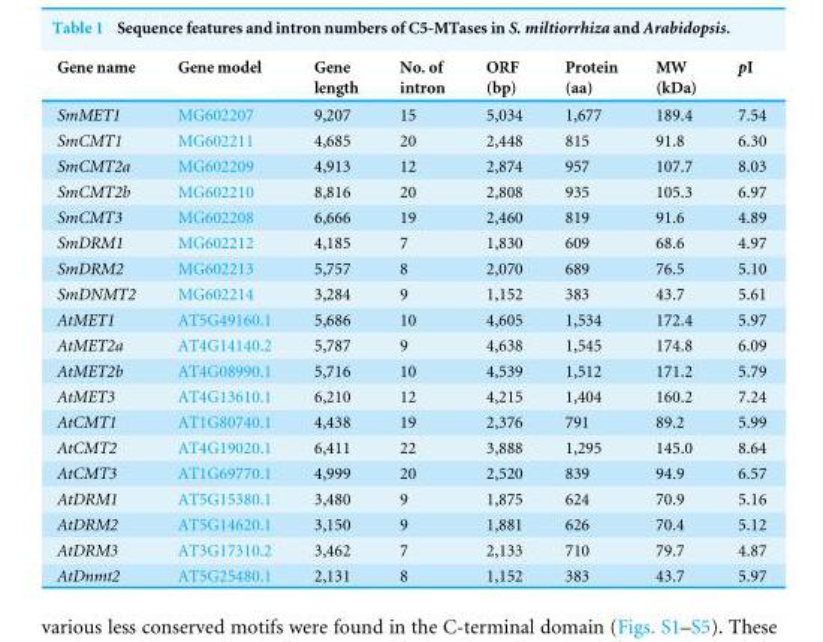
<table><thead><tr><td>Gene name</td><td>Gene model</td><td>Gene length</td><td>No. of intron</td><td>ORF (bp)</td><td>Protein (aa)</td><td>MW (kDa)</td><td>pI</td></tr></thead><tbody><tr><td>SmMET1</td><td>MG602207</td><td>9,207</td><td>15</td><td>5,034</td><td>1,677</td><td>189.4</td><td>7.54</td></tr><tr><td>SmCMT1</td><td>MG602211</td><td>4,685</td><td>20</td><td>2,448</td><td>815</td><td>91.8</td><td>6.30</td></tr><tr><td>SmCMT2a</td><td>MG602209</td><td>4,913</td><td>12</td><td>2,874</td><td>957</td><td>107.7</td><td>8.03</td></tr><tr><td>SmCMT2b</td><td>MG602210</td><td>8,816</td><td>20</td><td>2,808</td><td>935</td><td>105.3</td><td>6.97</td></tr><tr><td>SmCMT3</td><td>MG602208</td><td>6,666</td><td>19</td><td>2,460</td><td>819</td><td>91.6</td><td>4.89</td></tr><tr><td>SmDRM1</td><td>MG602212</td><td>4,185</td><td>7</td><td>1,830</td><td>609</td><td>68.6</td><td>4.97</td></tr><tr><td>SmDRM2</td><td>MG602213</td><td>5,757</td><td>8</td><td>2,070</td><td>689</td><td>76.5</td><td>5.10</td></tr><tr><td>SmDNMT2</td><td>MG602214</td><td>3,284</td><td>9</td><td>1,152</td><td>383</td><td>43.7</td><td>5.61</td></tr><tr><td>AtMET1</td><td>AT5G49160.1</td><td>5,686</td><td>10</td><td>4,605</td><td>1,534</td><td>172.4</td><td>5.97</td></tr><tr><td>AtMET2a</td><td>AT4G14140.2</td><td>5,787</td><td>9</td><td>4,638</td><td>1,545</td><td>174.8</td><td>6.09</td></tr><tr><td>AtMET2b</td><td>AT4G08990.1</td><td>5,716</td><td>10</td><td>4,539</td><td>1,512</td><td>171.2</td><td>5.79</td></tr><tr><td>AtMET3</td><td>AT4G13610.1</td><td>6,210</td><td>12</td><td>4,215</td><td>1,404</td><td>160.2</td><td>7.24</td></tr><tr><td>AtCMT1</td><td>AT1G80740.1</td><td>4,438</td><td>19</td><td>2,376</td><td>791</td><td>89.2</td><td>5.99</td></tr><tr><td>AtCMT2</td><td>AT4G19020.1</td><td>6,411</td><td>22</td><td>3,888</td><td>1,295</td><td>145.0</td><td>8.64</td></tr><tr><td>AtCMT3</td><td>AT1G69770.1</td><td>4,999</td><td>20</td><td>2,520</td><td>839</td><td>94.9</td><td>6.57</td></tr><tr><td>AtDRM1</td><td>AT5G15380.1</td><td>3,480</td><td>9</td><td>1,875</td><td>624</td><td>70.9</td><td>5.16</td></tr><tr><td>AtDRM2</td><td>AT5G14620.1</td><td>3,150</td><td>9</td><td>1,881</td><td>626</td><td>70.4</td><td>5.12</td></tr><tr><td>AtDRM3</td><td>AT3G17310.2</td><td>3,462</td><td>7</td><td>2,133</td><td>710</td><td>79.7</td><td>4.87</td></tr><tr><td>AtDnmt2</td><td>AT5G25480.1</td><td>2,131</td><td>8</td><td>1,152</td><td>383</td><td>43.7</td><td>5.97</td></tr></tbody></table>